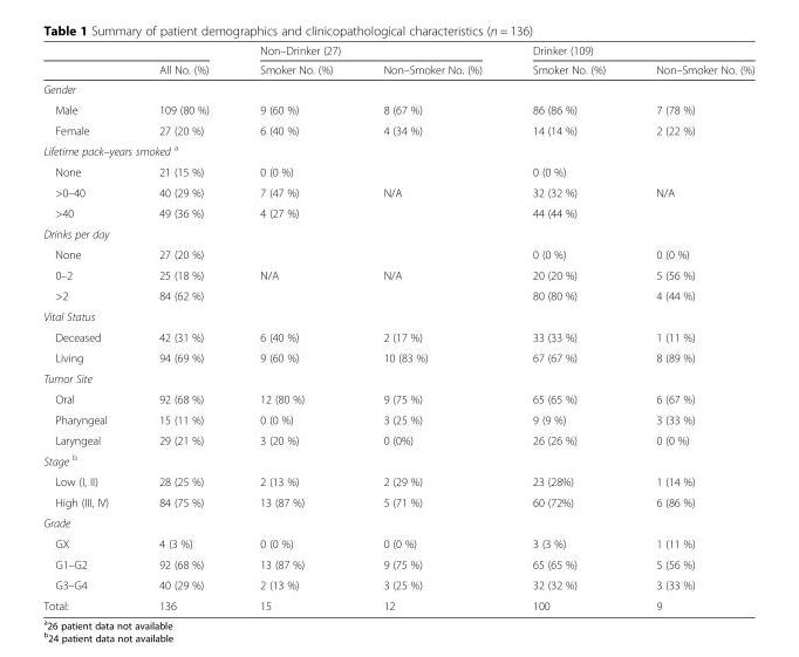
<table><thead><tr><td rowspan="2"></td><td rowspan="2">All No. (%)</td><td colspan="2">Non–Drinker (27)</td><td colspan="2">Drinker (109)</td></tr><tr><td>Smoker No. (%)</td><td>Non–Smoker No. (%)</td><td>Smoker No. (%)</td><td>Non–Smoker No. (%)</td></tr></thead><tbody><tr><td colspan="6">Gender</td></tr><tr><td>Male</td><td>109 (80 %)</td><td>9 (60 %)</td><td>8 (67 %)</td><td>86 (86 %)</td><td>7 (78 %)</td></tr><tr><td>Female</td><td>27 (20 %)</td><td>6 (40 %)</td><td>4 (34 %)</td><td>14 (14 %)</td><td>2 (22 %)</td></tr><tr><td colspan="6">Lifetime pack–years smoked <sup>a</sup></td></tr><tr><td>None</td><td>21 (15 %)</td><td>0 (0 %)</td><td></td><td>0 (0 %)</td><td></td></tr><tr><td>&gt;0–40</td><td>40 (29 %)</td><td>7 (47 %)</td><td>N/A</td><td>32 (32 %)</td><td>N/A</td></tr><tr><td>&gt;40</td><td>49 (36 %)</td><td>4 (27 %)</td><td></td><td>44 (44 %)</td><td></td></tr><tr><td colspan="6">Drinks per day</td></tr><tr><td>None</td><td>27 (20 %)</td><td></td><td></td><td>0 (0 %)</td><td>0 (0 %)</td></tr><tr><td>0–2</td><td>25 (18 %)</td><td>N/A</td><td>N/A</td><td>20 (20 %)</td><td>5 (56 %)</td></tr><tr><td>&gt;2</td><td>84 (62 %)</td><td></td><td></td><td>80 (80 %)</td><td>4 (44 %)</td></tr><tr><td colspan="6">Vital Status</td></tr><tr><td>Deceased</td><td>42 (31 %)</td><td>6 (40 %)</td><td>2 (17 %)</td><td>33 (33 %)</td><td>1 (11 %)</td></tr><tr><td>Living</td><td>94 (69 %)</td><td>9 (60 %)</td><td>10 (83 %)</td><td>67 (67 %)</td><td>8 (89 %)</td></tr><tr><td colspan="6">Tumor Site</td></tr><tr><td>Oral</td><td>92 (68 %)</td><td>12 (80 %)</td><td>9 (75 %)</td><td>65 (65 %)</td><td>6 (67 %)</td></tr><tr><td>Pharyngeal</td><td>15 (11 %)</td><td>0 (0 %)</td><td>3 (25 %)</td><td>9 (9 %)</td><td>3 (33 %)</td></tr><tr><td>Laryngeal</td><td>29 (21 %)</td><td>3 (20 %)</td><td>0 (0%)</td><td>26 (26 %)</td><td>0 (0 %)</td></tr><tr><td colspan="6">Stage <sup>b</sup></td></tr><tr><td>Low (I, II)</td><td>28 (25 %)</td><td>2 (13 %)</td><td>2 (29 %)</td><td>23 (28%)</td><td>1 (14 %)</td></tr><tr><td>High (III, IV)</td><td>84 (75 %)</td><td>13 (87 %)</td><td>5 (71 %)</td><td>60 (72%)</td><td>6 (86 %)</td></tr><tr><td colspan="6">Grade</td></tr><tr><td>GX</td><td>4 (3 %)</td><td>0 (0 %)</td><td>0 (0 %)</td><td>3 (3 %)</td><td>1 (11 %)</td></tr><tr><td>G1–G2</td><td>92 (68 %)</td><td>13 (87 %)</td><td>9 (75 %)</td><td>65 (65 %)</td><td>5 (56 %)</td></tr><tr><td>G3–G4</td><td>40 (29 %)</td><td>2 (13 %)</td><td>3 (25 %)</td><td>32 (32 %)</td><td>3 (33 %)</td></tr><tr><td>Total:</td><td>136</td><td>15</td><td>12</td><td>100</td><td>9</td></tr></tbody></table>